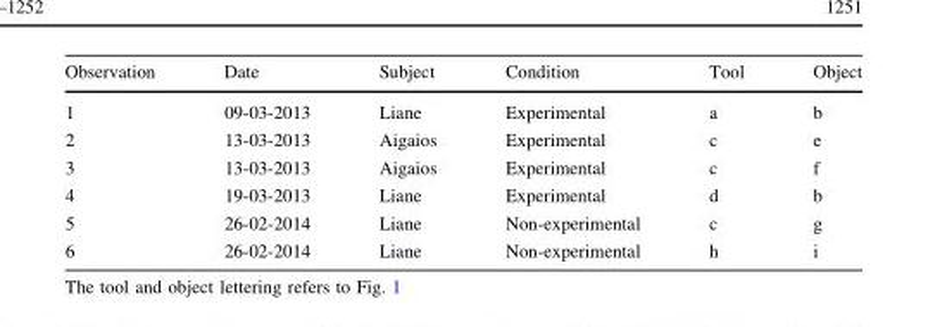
<table><thead><tr><td>Observation</td><td>Date</td><td>Subject</td><td>Condition</td><td>Tool</td><td>Object</td></tr></thead><tbody><tr><td>1</td><td>09-03-2013</td><td>Liane</td><td>Experimental</td><td>a</td><td>b</td></tr><tr><td>2</td><td>13-03-2013</td><td>Aigaios</td><td>Experimental</td><td>c</td><td>e</td></tr><tr><td>3</td><td>13-03-2013</td><td>Aigaios</td><td>Experimental</td><td>c</td><td>f</td></tr><tr><td>4</td><td>19-03-2013</td><td>Liane</td><td>Experimental</td><td>d</td><td>b</td></tr><tr><td>5</td><td>26-02-2014</td><td>Liane</td><td>Non-experimental</td><td>c</td><td>g</td></tr><tr><td>6</td><td>26-02-2014</td><td>Liane</td><td>Non-experimental</td><td>h</td><td>i</td></tr></tbody></table>